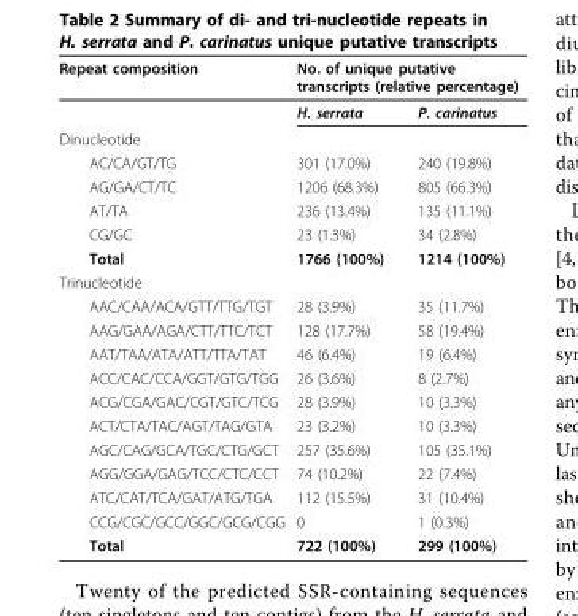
<table><thead><tr><td rowspan="2">Repeat composition</td><td colspan="2">No. of unique putative transcripts (relative percentage)</td></tr><tr><td>H. serrata</td><td>P. carinatus</td></tr></thead><tbody><tr><td colspan="3">Dinucleotide</td></tr><tr><td>AC/CA/GT/TG</td><td>301 (17.0%)</td><td>240 (19.8%)</td></tr><tr><td>AG/GA/CT/TC</td><td>1206 (68.3%)</td><td>805 (66.3%)</td></tr><tr><td>AT/TA</td><td>236 (13.4%)</td><td>135 (11.1%)</td></tr><tr><td>CG/GC</td><td>23 (1.3%)</td><td>34 (2.8%)</td></tr><tr><td>Total</td><td>1766 (100%)</td><td>1214 (100%)</td></tr><tr><td colspan="3">Trinucleotide</td></tr><tr><td>AAC/CAA/ACA/GTT/TTG/TGT</td><td>28 (3.9%)</td><td>35 (11.7%)</td></tr><tr><td>AAG/GAA/AGA/CTT/TTC/TCT</td><td>128 (17.7%)</td><td>58 (19.4%)</td></tr><tr><td>AAT/TAA/ATA/ATT/TTA/TAT</td><td>46 (6.4%)</td><td>19 (6.4%)</td></tr><tr><td>ACC/CAC/CCA/GGT/GTG/TGG</td><td>26 (3.6%)</td><td>8 (2.7%)</td></tr><tr><td>ACG/CGA/GAC/CGT/GTC/TCG</td><td>28 (3.9%)</td><td>10 (3.3%)</td></tr><tr><td>ACT/CTA/TAC/AGT/TAG/GTA</td><td>23 (3.2%)</td><td>10 (3.3%)</td></tr><tr><td>AGC/CAG/GCA/TGC/CTG/GCT</td><td>257 (35.6%)</td><td>105 (35.1%)</td></tr><tr><td>AGG/GGA/GAG/TCC/CTC/CCT</td><td>74 (10.2%)</td><td>22 (7.4%)</td></tr><tr><td>ATC/CAT/TCA/GAT/ATG/TGA</td><td>112 (15.5%)</td><td>31 (10.4%)</td></tr><tr><td>CCG/CGC/GCC/GGC/GCG/CGG</td><td>0</td><td>1 (0.3%)</td></tr><tr><td>Total</td><td>722 (100%)</td><td>299 (100%)</td></tr></tbody></table>